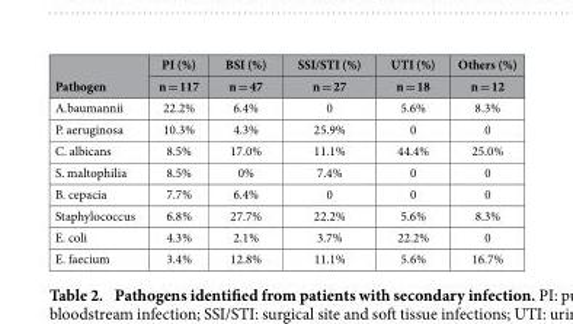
<table><thead><tr><td rowspan="2">Pathogen</td><td rowspan="2">PI (%) n = 117</td><td rowspan="2">BSI (%) n = 47</td><td rowspan="2">SSI/STI (%) n = 27</td><td rowspan="2">UTI (%) n = 18</td><td rowspan="2">Others (%) n = 12</td></tr><tr></tr></thead><tbody><tr><td>A.baumannii</td><td>22.2%</td><td>6.4%</td><td>0</td><td>5.6%</td><td>8.3%</td></tr><tr><td>P. aeruginosa</td><td>10.3%</td><td>4.3%</td><td>25.9%</td><td>0</td><td>0</td></tr><tr><td>C. albicans</td><td>8.5%</td><td>17.0%</td><td>11.1%</td><td>44.4%</td><td>25.0%</td></tr><tr><td>S. maltophilia</td><td>8.5%</td><td>0%</td><td>7.4%</td><td>0</td><td>0</td></tr><tr><td>B. cepacia</td><td>7.7%</td><td>6.4%</td><td>0</td><td>0</td><td>0</td></tr><tr><td>Staphylococcus</td><td>6.8%</td><td>27.7%</td><td>22.2%</td><td>5.6%</td><td>8.3%</td></tr><tr><td>E. coli</td><td>4.3%</td><td>2.1%</td><td>3.7%</td><td>22.2%</td><td>0</td></tr><tr><td>E. faecium</td><td>3.4%</td><td>12.8%</td><td>11.1%</td><td>5.6%</td><td>16.7%</td></tr></tbody></table>